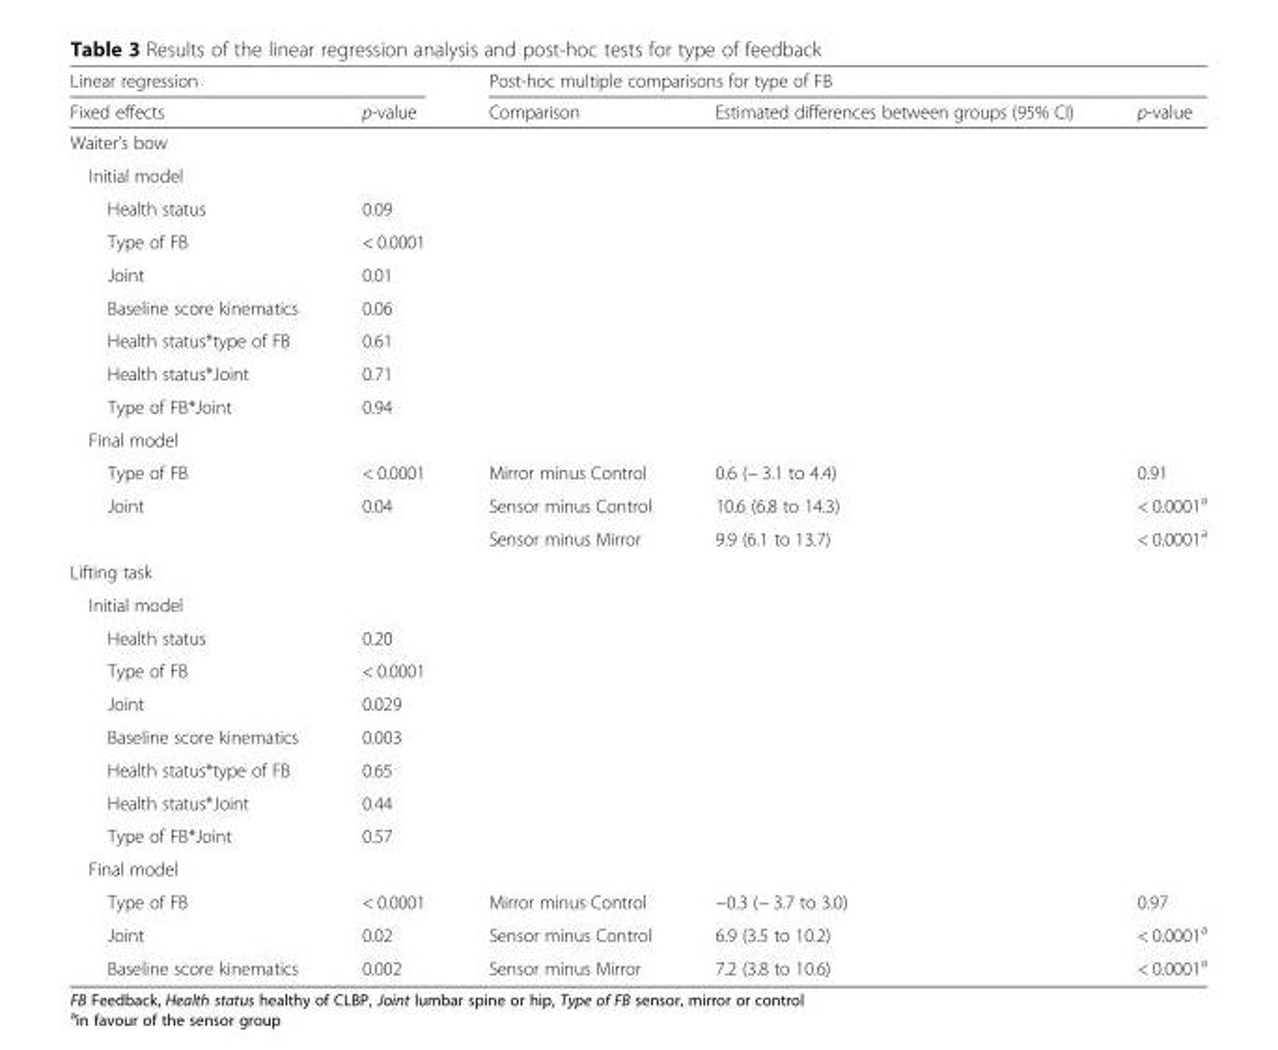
<table><thead><tr><td colspan="2">Linear regression</td><td colspan="3">Post-hoc multiple comparisons for type of FB</td></tr><tr><td>Fixed effects</td><td>p-value</td><td>Comparison</td><td>Estimated differences between groups (95% CI)</td><td>p-value</td></tr></thead><tbody><tr><td colspan="5">Waiter’s bow</td></tr><tr><td colspan="5">Initial model</td></tr><tr><td>Health status</td><td>0.09</td><td></td><td></td><td></td></tr><tr><td>Type of FB</td><td>&lt; 0.0001</td><td></td><td></td><td></td></tr><tr><td>Joint</td><td>0.01</td><td></td><td></td><td></td></tr><tr><td>Baseline score kinematics</td><td>0.06</td><td></td><td></td><td></td></tr><tr><td>Health status*type of FB</td><td>0.61</td><td></td><td></td><td></td></tr><tr><td>Health status*Joint</td><td>0.71</td><td></td><td></td><td></td></tr><tr><td>Type of FB*Joint</td><td>0.94</td><td></td><td></td><td></td></tr><tr><td colspan="5">Final model</td></tr><tr><td>Type of FB</td><td>&lt; 0.0001</td><td>Mirror minus Control</td><td>0.6 (− 3.1 to 4.4)</td><td>0.91</td></tr><tr><td rowspan="2">Joint</td><td>0.04</td><td>Sensor minus Control</td><td>10.6 (6.8 to 14.3)</td><td>&lt; 0.0001<sup>a</sup></td></tr><tr><td></td><td>Sensor minus Mirror</td><td>9.9 (6.1 to 13.7)</td><td>&lt; 0.0001<sup>a</sup></td></tr><tr><td colspan="5">Lifting task</td></tr><tr><td colspan="5">Initial model</td></tr><tr><td>Health status</td><td>0.20</td><td></td><td></td><td></td></tr><tr><td>Type of FB</td><td>&lt; 0.0001</td><td></td><td></td><td></td></tr><tr><td>Joint</td><td>0.029</td><td></td><td></td><td></td></tr><tr><td>Baseline score kinematics</td><td>0.003</td><td></td><td></td><td></td></tr><tr><td>Health status*type of FB</td><td>0.65</td><td></td><td></td><td></td></tr><tr><td>Health status*Joint</td><td>0.44</td><td></td><td></td><td></td></tr><tr><td>Type of FB*Joint</td><td>0.57</td><td></td><td></td><td></td></tr><tr><td colspan="5">Final model</td></tr><tr><td>Type of FB</td><td>&lt; 0.0001</td><td>Mirror minus Control</td><td>−0.3 (− 3.7 to 3.0)</td><td>0.97</td></tr><tr><td>Joint</td><td>0.02</td><td>Sensor minus Control</td><td>6.9 (3.5 to 10.2)</td><td>&lt; 0.0001<sup>a</sup></td></tr><tr><td>Baseline score kinematics</td><td>0.002</td><td>Sensor minus Mirror</td><td>7.2 (3.8 to 10.6)</td><td>&lt; 0.0001<sup>a</sup></td></tr></tbody></table>